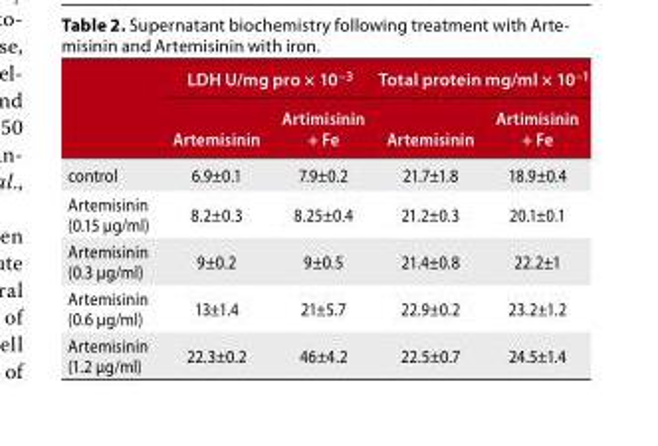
<table><thead><tr><td rowspan="2"></td><td colspan="2">LDH U/mg pro × 10<sup>–3</sup></td><td colspan="2">Total protein mg/ml × 10<sup>–1</sup></td></tr><tr><td>Artemisinin</td><td>Artimisinin + Fe</td><td>Artemisinin</td><td>Artimisinin + Fe</td></tr></thead><tbody><tr><td>control</td><td>6.9±0.1</td><td>7.9±0.2</td><td>21.7±1.8</td><td>18.9±0.4</td></tr><tr><td>Artemisinin (0.15 μg/ml)</td><td>8.2±0.3</td><td>8.25±0.4</td><td>21.2±0.3</td><td>20.1±0.1</td></tr><tr><td>Artemisinin (0.3 μg/ml)</td><td>9±0.2</td><td>9±0.5</td><td>21.4±0.8</td><td>22.2±1</td></tr><tr><td>Artemisinin (0.6 μg/ml)</td><td>13±1.4</td><td>21±5.7</td><td>22.9±0.2</td><td>23.2±1.2</td></tr><tr><td>Artemisinin (1.2 μg/ml)</td><td>22.3±0.2</td><td>46±4.2</td><td>22.5±0.7</td><td>24.5±1.4</td></tr></tbody></table>